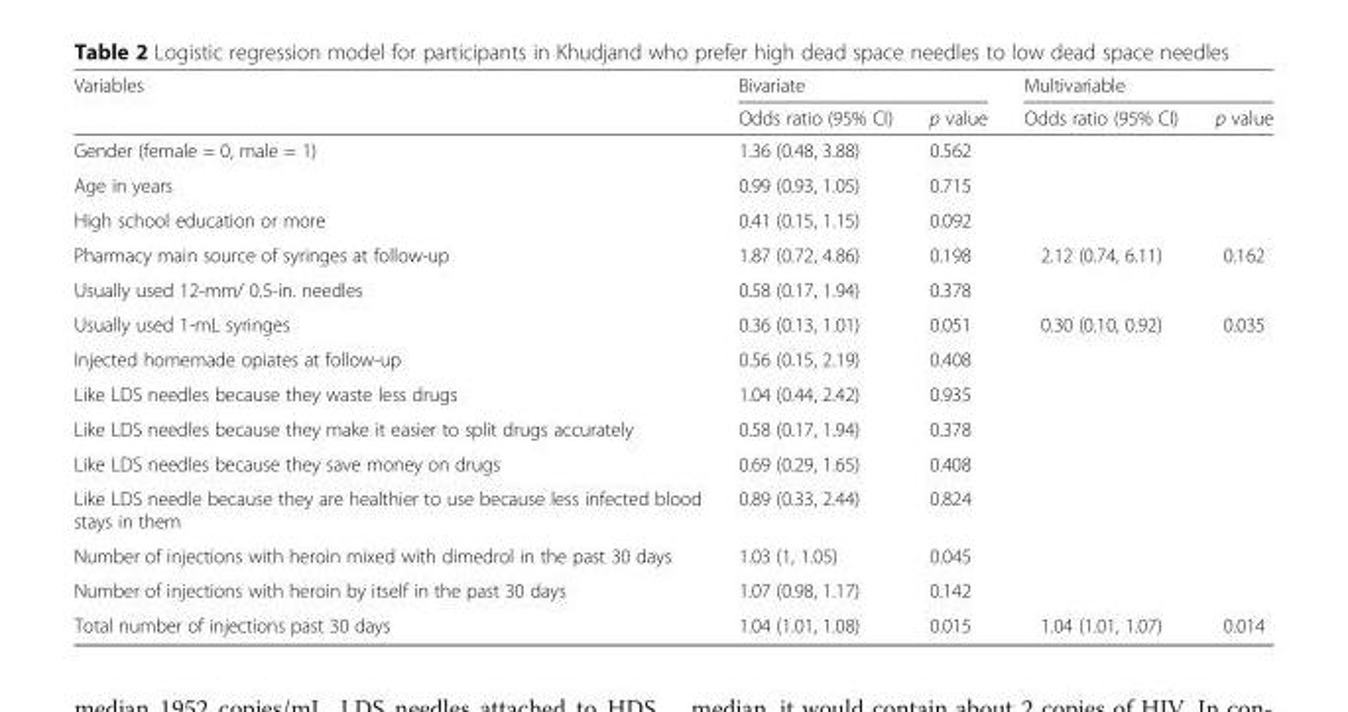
<table><thead><tr><td rowspan="2">Variables</td><td colspan="2">Bivariate</td><td colspan="2">Multivariable</td></tr><tr><td>Odds ratio (95% CI)</td><td>p value</td><td>Odds ratio (95% CI)</td><td>p value</td></tr></thead><tbody><tr><td>Gender (female = 0, male = 1)</td><td>1.36 (0.48, 3.88)</td><td>0.562</td><td></td><td></td></tr><tr><td>Age in years</td><td>0.99 (0.93, 1.05)</td><td>0.715</td><td></td><td></td></tr><tr><td>High school education or more</td><td>0.41 (0.15, 1.15)</td><td>0.092</td><td></td><td></td></tr><tr><td>Pharmacy main source of syringes at follow-up</td><td>1.87 (0.72, 4.86)</td><td>0.198</td><td>2.12 (0.74, 6.11)</td><td>0.162</td></tr><tr><td>Usually used 12-mm/ 0.5-in. needles</td><td>0.58 (0.17, 1.94)</td><td>0.378</td><td></td><td></td></tr><tr><td>Usually used 1-mL syringes</td><td>0.36 (0.13, 1.01)</td><td>0.051</td><td>0.30 (0.10, 0.92)</td><td>0.035</td></tr><tr><td>Injected homemade opiates at follow-up</td><td>0.56 (0.15, 2.19)</td><td>0.408</td><td></td><td></td></tr><tr><td>Like LDS needles because they waste less drugs</td><td>1.04 (0.44, 2.42)</td><td>0.935</td><td></td><td></td></tr><tr><td>Like LDS needles because they make it easier to split drugs accurately</td><td>0.58 (0.17, 1.94)</td><td>0.378</td><td></td><td></td></tr><tr><td>Like LDS needles because they save money on drugs</td><td>0.69 (0.29, 1.65)</td><td>0.408</td><td></td><td></td></tr><tr><td>Like LDS needle because they are healthier to use because less infected blood stays in them</td><td>0.89 (0.33, 2.44)</td><td>0.824</td><td></td><td></td></tr><tr><td>Number of injections with heroin mixed with dimedrol in the past 30 days</td><td>1.03 (1, 1.05)</td><td>0.045</td><td></td><td></td></tr><tr><td>Number of injections with heroin by itself in the past 30 days</td><td>1.07 (0.98, 1.17)</td><td>0.142</td><td></td><td></td></tr><tr><td>Total number of injections past 30 days</td><td>1.04 (1.01, 1.08)</td><td>0.015</td><td>1.04 (1.01, 1.07)</td><td>0.014</td></tr></tbody></table>